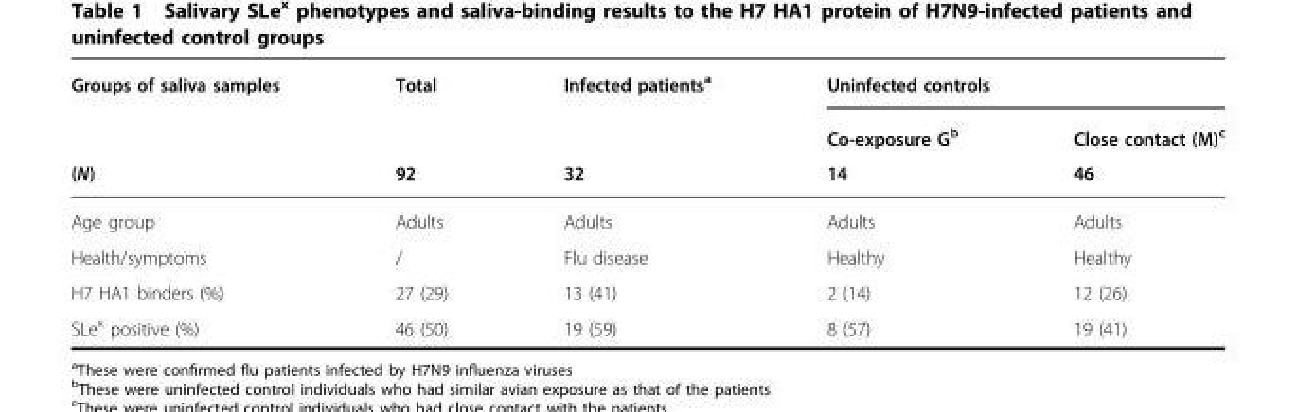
<table><thead><tr><td rowspan="3">Groups of saliva samples (N)</td><td rowspan="3">Total 92</td><td rowspan="3">Infected patients<sup>a</sup> 32</td><td colspan="2">Uninfected controls</td></tr><tr><td rowspan="2">Co-exposure G<sup>b</sup> 14</td><td rowspan="2">Close contact (M)<sup>c</sup> 46</td></tr><tr></tr></thead><tbody><tr><td>Age group</td><td>Adults</td><td>Adults</td><td>Adults</td><td>Adults</td></tr><tr><td>Health/symptoms</td><td>/</td><td>Flu disease</td><td>Healthy</td><td>Healthy</td></tr><tr><td>H7 HA1 binders (%)</td><td>27 (29)</td><td>13 (41)</td><td>2 (14)</td><td>12 (26)</td></tr><tr><td>SLe<sup>x</sup> positive (%)</td><td>46 (50)</td><td>19 (59)</td><td>8 (57)</td><td>19 (41)</td></tr></tbody></table>